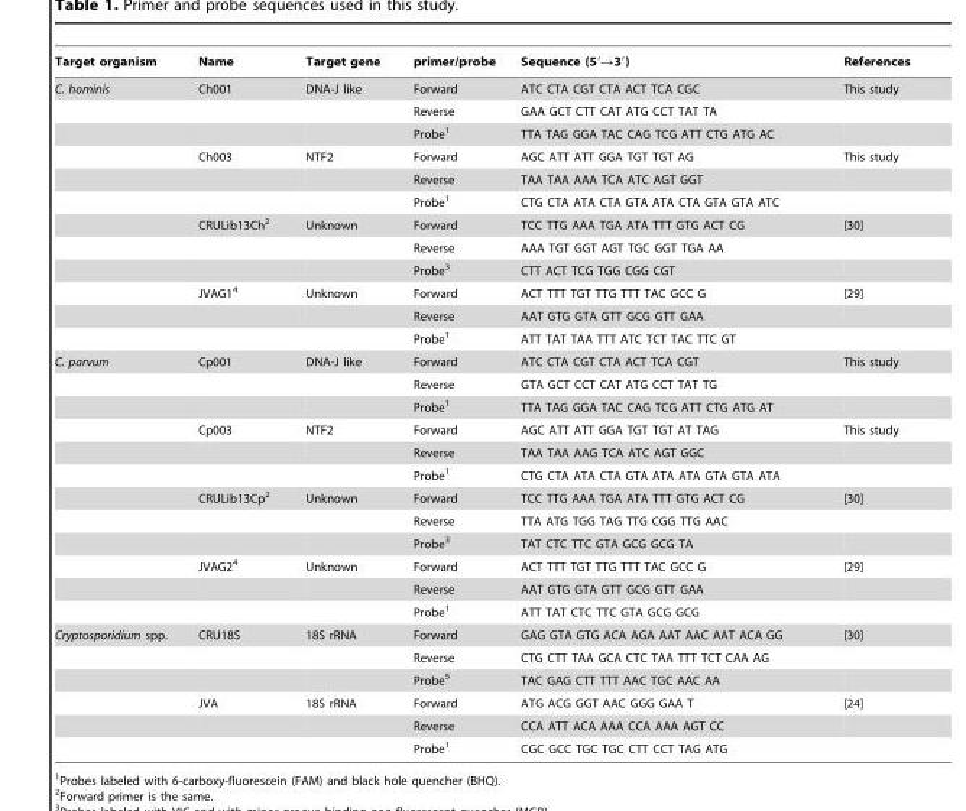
<table><thead><tr><td>Target organism</td><td>Name</td><td>Target gene</td><td>primer/probe</td><td>Sequence (5′→3′)</td><td>References</td></tr></thead><tbody><tr><td rowspan="12">C. hominis</td><td>Ch001</td><td>DNA-J like</td><td>Forward</td><td>ATC CTA CGT CTA ACT TCA CGC</td><td>This study</td></tr><tr><td></td><td></td><td>Reverse</td><td>GAA GCT CTT CAT ATG CCT TAT TA</td><td></td></tr><tr><td></td><td></td><td>Probe<sup>1</sup></td><td>TTA TAG GGA TAC CAG TCG ATT CTG ATG AC</td><td></td></tr><tr><td>Ch003</td><td>NTF2</td><td>Forward</td><td>AGC ATT ATT GGA TGT TGT AG</td><td>This study</td></tr><tr><td></td><td></td><td>Reverse</td><td>TAA TAA AAA TCA ATC AGT GGT</td><td></td></tr><tr><td></td><td></td><td>Probe<sup>1</sup></td><td>CTG CTA ATA CTA GTA ATA CTA GTA GTA ATC</td><td></td></tr><tr><td>CRULib13Ch<sup>2</sup></td><td>Unknown</td><td>Forward</td><td>TCC TTG AAA TGA ATA TTT GTG ACT CG</td><td>[30]</td></tr><tr><td></td><td></td><td>Reverse</td><td>AAA TGT GGT AGT TGC GGT TGA AA</td><td></td></tr><tr><td></td><td></td><td>Probe<sup>3</sup></td><td>CTT ACT TCG TGG CGG CGT</td><td></td></tr><tr><td>JVAG1<sup>4</sup></td><td>Unknown</td><td>Forward</td><td>ACT TTT TGT TTG TTT TAC GCC G</td><td>[29]</td></tr><tr><td></td><td></td><td>Reverse</td><td>AAT GTG GTA GTT GCG GTT GAA</td><td></td></tr><tr><td></td><td></td><td>Probe<sup>1</sup></td><td>ATT TAT TAA TTT ATC TCT TAC TTC GT</td><td></td></tr><tr><td rowspan="12">C. parvum</td><td>Cp001</td><td>DNA-J like</td><td>Forward</td><td>ATC CTA CGT CTA ACT TCA CGT</td><td>This study</td></tr><tr><td></td><td></td><td>Reverse</td><td>GTA GCT CCT CAT ATG CCT TAT TG</td><td></td></tr><tr><td></td><td></td><td>Probe<sup>1</sup></td><td>TTA TAG GGA TAC CAG TCG ATT CTG ATG AT</td><td></td></tr><tr><td>Cp003</td><td>NTF2</td><td>Forward</td><td>AGC ATT ATT GGA TGT TGT AT TAG</td><td>This study</td></tr><tr><td></td><td></td><td>Reverse</td><td>TAA TAA AAG TCA ATC AGT GGC</td><td></td></tr><tr><td></td><td></td><td>Probe<sup>1</sup></td><td>CTG CTA ATA CTA GTA ATA ATA GTA GTA ATA</td><td></td></tr><tr><td>CRULib13Cp<sup>2</sup></td><td>Unknown</td><td>Forward</td><td>TCC TTG AAA TGA ATA TTT GTG ACT CG</td><td>[30]</td></tr><tr><td></td><td></td><td>Reverse</td><td>TTA ATG TGG TAG TTG CGG TTG AAC</td><td></td></tr><tr><td></td><td></td><td>Probe<sup>3</sup></td><td>TAT CTC TTC GTA GCG GCG TA</td><td></td></tr><tr><td>JVAG2<sup>4</sup></td><td>Unknown</td><td>Forward</td><td>ACT TTT TGT TTG TTT TAC GCC G</td><td>[29]</td></tr><tr><td></td><td></td><td>Reverse</td><td>AAT GTG GTA GTT GCG GTT GAA</td><td></td></tr><tr><td></td><td></td><td>Probe<sup>1</sup></td><td>ATT TAT CTC TTC GTA GCG GCG</td><td></td></tr><tr><td rowspan="6">Cryptosporidium spp.</td><td>CRU18S</td><td>18S rRNA</td><td>Forward</td><td>GAG GTA GTG ACA AGA AAT AAC AAT ACA GG</td><td>[30]</td></tr><tr><td></td><td></td><td>Reverse</td><td>CTG CTT TAA GCA CTC TAA TTT TCT CAA AG</td><td></td></tr><tr><td></td><td></td><td>Probe<sup>5</sup></td><td>TAC GAG CTT TTT AAC TGC AAC AA</td><td></td></tr><tr><td>JVA</td><td>18S rRNA</td><td>Forward</td><td>ATG ACG GGT AAC GGG GAA T</td><td>[24]</td></tr><tr><td></td><td></td><td>Reverse</td><td>CCA ATT ACA AAA CCA AAA AGT CC</td><td></td></tr><tr><td></td><td></td><td>Probe<sup>1</sup></td><td>CGC GCC TGC TGC CTT CCT TAG ATG</td><td></td></tr></tbody></table>